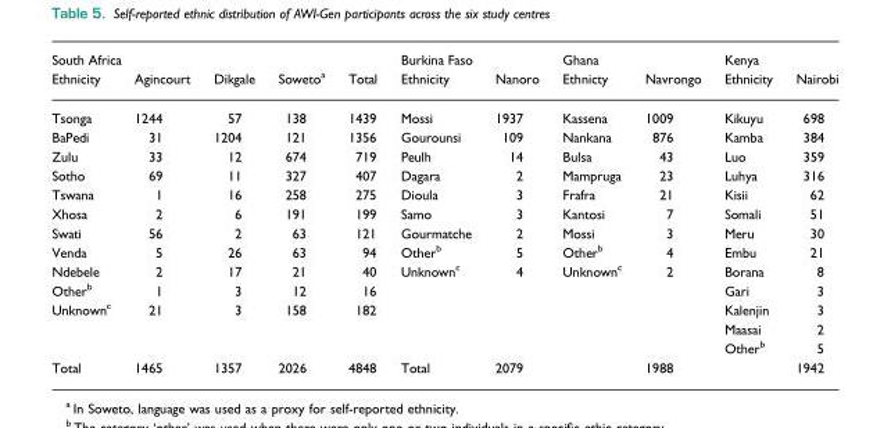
<table><thead><tr><td colspan="5">South Africa</td><td colspan="2">Burkina Faso</td><td colspan="2">Ghana</td><td colspan="2">Kenya</td></tr><tr><td>Ethnicity</td><td>Agincourt</td><td>Dikgale</td><td>Soweto<sup>a</sup></td><td>Total</td><td>Ethnicity</td><td>Nanoro</td><td>Ethnicty</td><td>Navrongo</td><td>Ethnicity</td><td>Nairobi</td></tr></thead><tbody><tr><td>Tsonga</td><td>1244</td><td>57</td><td>138</td><td>1439</td><td>Mossi</td><td>1937</td><td>Kassena</td><td>1009</td><td>Kikuyu</td><td>698</td></tr><tr><td>BaPedi</td><td>31</td><td>1204</td><td>121</td><td>1356</td><td>Gourounsi</td><td>109</td><td>Nankana</td><td>876</td><td>Kamba</td><td>384</td></tr><tr><td>Zulu</td><td>33</td><td>12</td><td>674</td><td>719</td><td>Peulh</td><td>14</td><td>Bulsa</td><td>43</td><td>Luo</td><td>359</td></tr><tr><td>Sotho</td><td>69</td><td>11</td><td>327</td><td>407</td><td>Dagara</td><td>2</td><td>Mampruga</td><td>23</td><td>Luhya</td><td>316</td></tr><tr><td>Tswana</td><td>1</td><td>16</td><td>258</td><td>275</td><td>Dioula</td><td>3</td><td>Frafra</td><td>21</td><td>Kisii</td><td>62</td></tr><tr><td>Xhosa</td><td>2</td><td>6</td><td>191</td><td>199</td><td>Samo</td><td>3</td><td>Kantosi</td><td>7</td><td>Somali</td><td>51</td></tr><tr><td>Swati</td><td>56</td><td>2</td><td>63</td><td>121</td><td>Gourmatche</td><td>2</td><td>Mossi</td><td>3</td><td>Meru</td><td>30</td></tr><tr><td>Venda</td><td>5</td><td>26</td><td>63</td><td>94</td><td>Other<sup>b</sup></td><td>5</td><td>Other<sup>b</sup></td><td>4</td><td>Embu</td><td>21</td></tr><tr><td>Ndebele</td><td>2</td><td>17</td><td>21</td><td>40</td><td>Unknown<sup>c</sup></td><td>4</td><td>Unknown<sup>c</sup></td><td>2</td><td>Borana</td><td>8</td></tr><tr><td>Other<sup>b</sup></td><td>1</td><td>3</td><td>12</td><td>16</td><td></td><td></td><td></td><td></td><td>Gari</td><td>3</td></tr><tr><td rowspan="3">Unknown<sup>c</sup></td><td>21</td><td>3</td><td>158</td><td>182</td><td></td><td></td><td></td><td></td><td>Kalenjin</td><td>3</td></tr><tr><td></td><td></td><td></td><td></td><td></td><td></td><td></td><td></td><td>Maasai</td><td>2</td></tr><tr><td></td><td></td><td></td><td></td><td></td><td></td><td></td><td></td><td>Other<sup>b</sup></td><td>5</td></tr><tr><td>Total</td><td>1465</td><td>1357</td><td>2026</td><td>4848</td><td>Total</td><td>2079</td><td></td><td>1988</td><td></td><td>1942</td></tr></tbody></table>